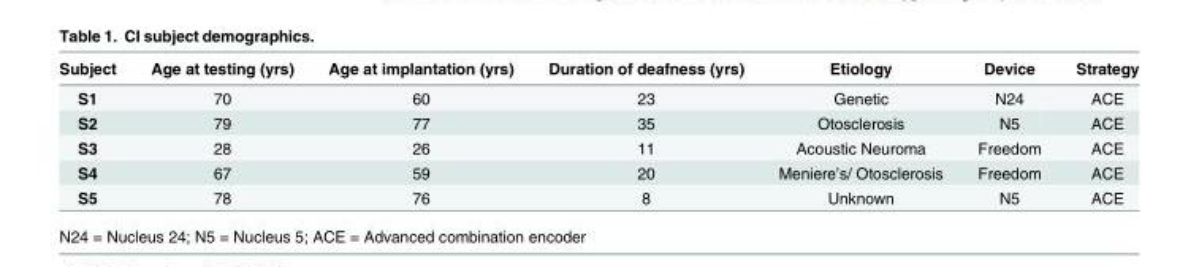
<table><thead><tr><td>Subject</td><td>Age at testing (yrs)</td><td>Age at implantation (yrs)</td><td>Duration of deafness (yrs)</td><td>Etiology</td><td>Device</td><td>Strategy</td></tr></thead><tbody><tr><td>S1</td><td>70</td><td>60</td><td>23</td><td>Genetic</td><td>N24</td><td>ACE</td></tr><tr><td>S2</td><td>79</td><td>77</td><td>35</td><td>Otosclerosis</td><td>N5</td><td>ACE</td></tr><tr><td>S3</td><td>28</td><td>26</td><td>11</td><td>Acoustic Neuroma</td><td>Freedom</td><td>ACE</td></tr><tr><td>S4</td><td>67</td><td>59</td><td>20</td><td>Meniere’s/ Otosclerosis</td><td>Freedom</td><td>ACE</td></tr><tr><td>S5</td><td>78</td><td>76</td><td>8</td><td>Unknown</td><td>N5</td><td>ACE</td></tr></tbody></table>